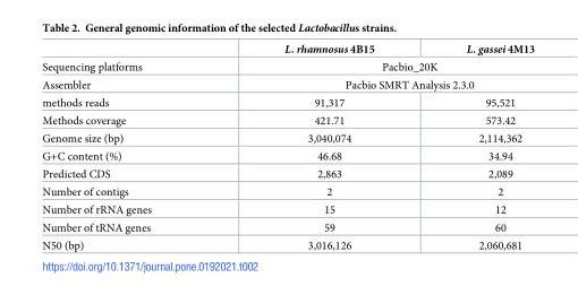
<table><thead><tr><td></td><td>L. rhamnosus 4B15</td><td>L. gassei 4M13</td></tr></thead><tbody><tr><td>Sequencing platforms</td><td colspan="2">Pacbio_20K</td></tr><tr><td>Assembler</td><td colspan="2">Pacbio SMRT Analysis 2.3.0</td></tr><tr><td>methods reads</td><td>91,317</td><td>95,521</td></tr><tr><td>Methods coverage</td><td>421.71</td><td>573.42</td></tr><tr><td>Genome size (bp)</td><td>3,040,074</td><td>2,114,362</td></tr><tr><td>G+C content (%)</td><td>46.68</td><td>34.94</td></tr><tr><td>Predicted CDS</td><td>2,863</td><td>2,089</td></tr><tr><td>Number of contigs</td><td>2</td><td>2</td></tr><tr><td>Number of rRNA genes</td><td>15</td><td>12</td></tr><tr><td>Number of tRNA genes</td><td>59</td><td>60</td></tr><tr><td>N50 (bp)</td><td>3,016,126</td><td>2,060,681</td></tr></tbody></table>